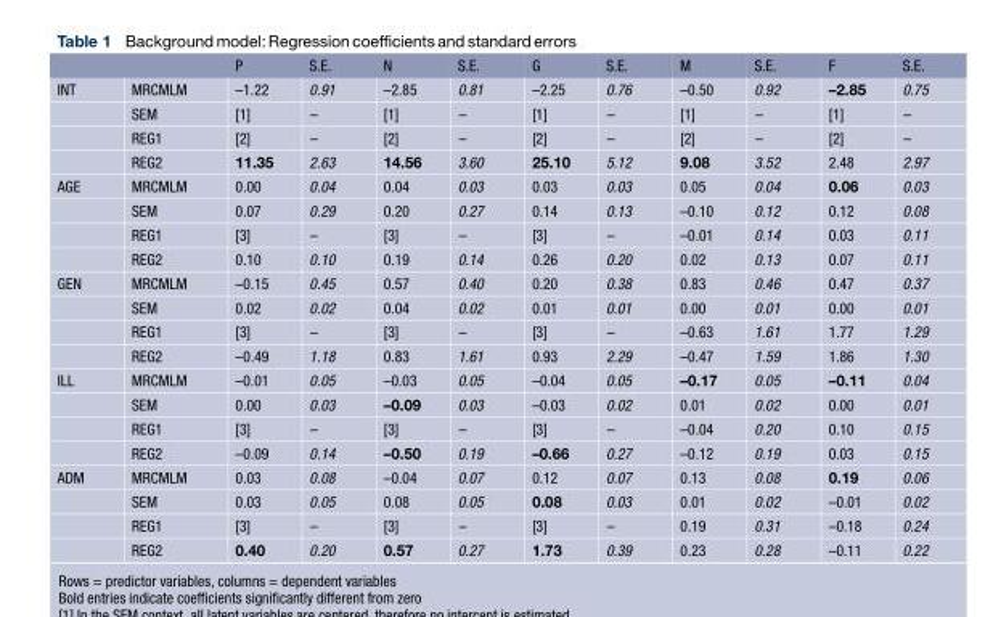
<table><thead><tr><td></td><td></td><td>P</td><td>S.E.</td><td>N</td><td>S.E.</td><td>G</td><td>S.E.</td><td>M</td><td>S.E.</td><td>F</td><td>S.E.</td></tr></thead><tbody><tr><td rowspan="4">INT</td><td>MRCMLM</td><td>–1.22</td><td>0.91</td><td>–2.85</td><td>0.81</td><td>–2.25</td><td>0.76</td><td>–0.50</td><td>0.92</td><td>–2.85</td><td>0.75</td></tr><tr><td>SEM</td><td>[1]</td><td>–</td><td>[1]</td><td>–</td><td>[1]</td><td>–</td><td>[1]</td><td>–</td><td>[1]</td><td>–</td></tr><tr><td>REG1</td><td>[2]</td><td>–</td><td>[2]</td><td>–</td><td>[2]</td><td>–</td><td>[2]</td><td>–</td><td>[2]</td><td>–</td></tr><tr><td>REG2</td><td>11.35</td><td>2.63</td><td>14.56</td><td>3.60</td><td>25.10</td><td>5.12</td><td>9.08</td><td>3.52</td><td>2.48</td><td>2.97</td></tr><tr><td rowspan="4">AGE</td><td>MRCMLM</td><td>0.00</td><td>0.04</td><td>0.04</td><td>0.03</td><td>0.03</td><td>0.03</td><td>0.05</td><td>0.04</td><td>0.06</td><td>0.03</td></tr><tr><td>SEM</td><td>0.07</td><td>0.29</td><td>0.20</td><td>0.27</td><td>0.14</td><td>0.13</td><td>–0.10</td><td>0.12</td><td>0.12</td><td>0.08</td></tr><tr><td>REG1</td><td>[3]</td><td>–</td><td>[3]</td><td>–</td><td>[3]</td><td>–</td><td>–0.01</td><td>0.14</td><td>0.03</td><td>0.11</td></tr><tr><td>REG2</td><td>0.10</td><td>0.10</td><td>0.19</td><td>0.14</td><td>0.26</td><td>0.20</td><td>0.02</td><td>0.13</td><td>0.07</td><td>0.11</td></tr><tr><td rowspan="4">GEN</td><td>MRCMLM</td><td>–0.15</td><td>0.45</td><td>0.57</td><td>0.40</td><td>0.20</td><td>0.38</td><td>0.83</td><td>0.46</td><td>0.47</td><td>0.37</td></tr><tr><td>SEM</td><td>0.02</td><td>0.02</td><td>0.04</td><td>0.02</td><td>0.01</td><td>0.01</td><td>0.00</td><td>0.01</td><td>0.00</td><td>0.01</td></tr><tr><td>REG1</td><td>[3]</td><td>–</td><td>[3]</td><td>–</td><td>[3]</td><td>–</td><td>–0.63</td><td>1.61</td><td>1.77</td><td>1.29</td></tr><tr><td>REG2</td><td>–0.49</td><td>1.18</td><td>0.83</td><td>1.61</td><td>0.93</td><td>2.29</td><td>–0.47</td><td>1.59</td><td>1.86</td><td>1.30</td></tr><tr><td rowspan="4">ILL</td><td>MRCMLM</td><td>–0.01</td><td>0.05</td><td>–0.03</td><td>0.05</td><td>–0.04</td><td>0.05</td><td>–0.17</td><td>0.05</td><td>–0.11</td><td>0.04</td></tr><tr><td>SEM</td><td>0.00</td><td>0.03</td><td>–0.09</td><td>0.03</td><td>–0.03</td><td>0.02</td><td>0.01</td><td>0.02</td><td>0.00</td><td>0.01</td></tr><tr><td>REG1</td><td>[3]</td><td>–</td><td>[3]</td><td>–</td><td>[3]</td><td>–</td><td>–0.04</td><td>0.20</td><td>0.10</td><td>0.15</td></tr><tr><td>REG2</td><td>–0.09</td><td>0.14</td><td>–0.50</td><td>0.19</td><td>–0.66</td><td>0.27</td><td>–0.12</td><td>0.19</td><td>0.03</td><td>0.15</td></tr><tr><td rowspan="4">ADM</td><td>MRCMLM</td><td>0.03</td><td>0.08</td><td>–0.04</td><td>0.07</td><td>0.12</td><td>0.07</td><td>0.13</td><td>0.08</td><td>0.19</td><td>0.06</td></tr><tr><td>SEM</td><td>0.03</td><td>0.05</td><td>0.08</td><td>0.05</td><td>0.08</td><td>0.03</td><td>0.01</td><td>0.02</td><td>–0.01</td><td>0.02</td></tr><tr><td>REG1</td><td>[3]</td><td>–</td><td>[3]</td><td>–</td><td>[3]</td><td>–</td><td>0.19</td><td>0.31</td><td>–0.18</td><td>0.24</td></tr><tr><td>REG2</td><td>0.40</td><td>0.20</td><td>0.57</td><td>0.27</td><td>1.73</td><td>0.39</td><td>0.23</td><td>0.28</td><td>–0.11</td><td>0.22</td></tr></tbody></table>